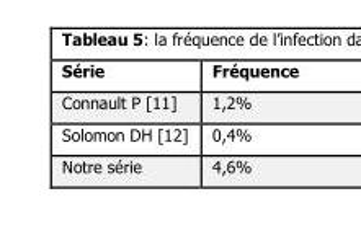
<table><thead><tr><td>Série</td><td>Fréquence</td></tr></thead><tbody><tr><td>Connault P [11]</td><td>1,2%</td></tr><tr><td>Solomon DH [12]</td><td>0,4%</td></tr><tr><td>Notre série</td><td>4,6%</td></tr></tbody></table>